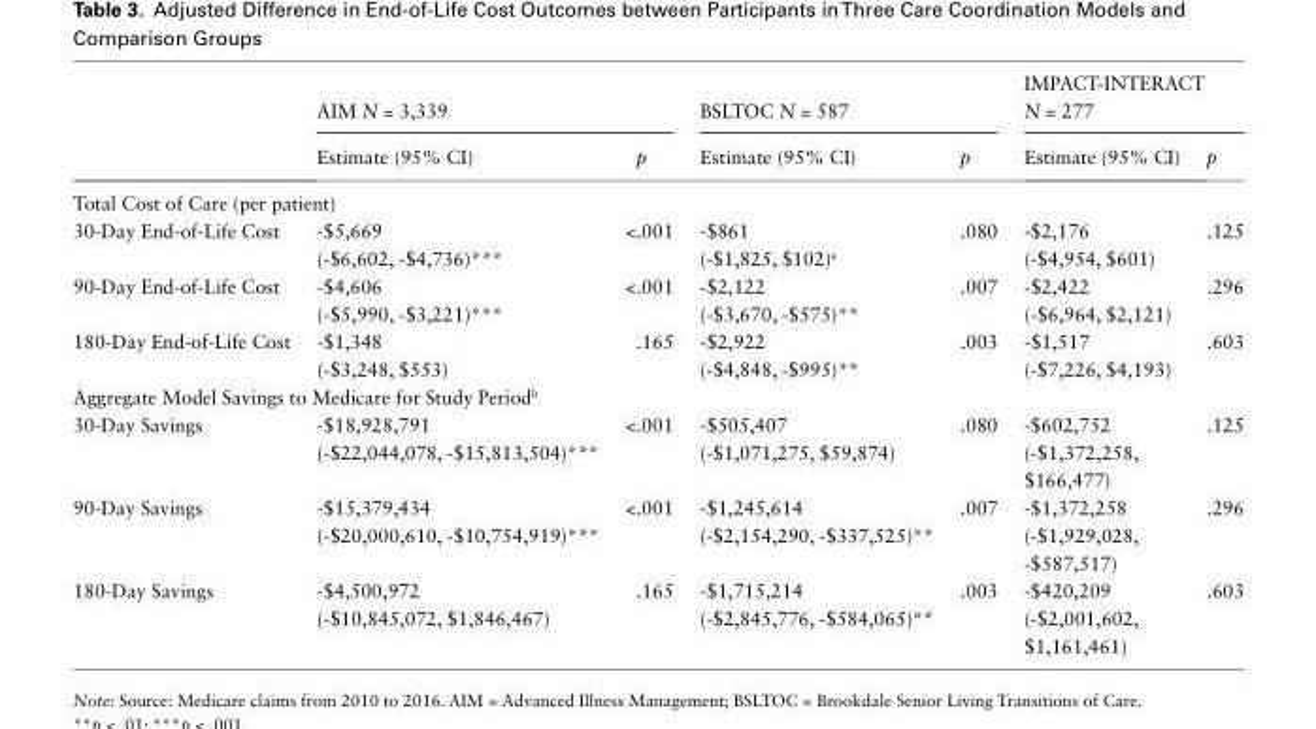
<table><thead><tr><td rowspan="2"></td><td colspan="2">AIM N = 3,339</td><td colspan="2">BSLTOC N = 587</td><td colspan="2">IMPACT-INTERACT N = 277</td></tr><tr><td>Estimate (95% CI)</td><td>p</td><td>Estimate (95% CI)</td><td>p</td><td>Estimate (95% CI)</td><td>p</td></tr></thead><tbody><tr><td colspan="7">Total Cost of Care (per patient)</td></tr><tr><td>30-Day End-of-Life Cost</td><td>-$5,669 (-$6,602, -$4,736)***</td><td>&lt;.001</td><td>-$861 (-$1,825, $102)<sup>a</sup></td><td>.080</td><td>-$2,176 (-$4,954, $601)</td><td>.125</td></tr><tr><td>90-Day End-of-Life Cost</td><td>-$4,606 (-$5,990, -$3,221)***</td><td>&lt;.001</td><td>-$2,122 (-$3,670, -$575)**</td><td>.007</td><td>-$2,422 (-$6,964, $2,121)</td><td>.296</td></tr><tr><td>180-Day End-of-Life Cost</td><td>-$1,348 (-$3,248, $553)</td><td>.165</td><td>-$2,922 (-$4,848, -$995)**</td><td>.003</td><td>-$1,517 (-$7,226, $4,193)</td><td>.603</td></tr><tr><td colspan="7">Aggregate Model Savings to Medicare for Study Period<sup>b</sup></td></tr><tr><td>30-Day Savings</td><td>-$18,928,791 (-$22,044,078, -$15,813,504)***</td><td>&lt;.001</td><td>-$505,407 (-$1,071,275, $59,874)</td><td>.080</td><td>-$602,752 (-$1,372,258, $166,477)</td><td>.125</td></tr><tr><td>90-Day Savings</td><td>-$15,379,434 (-$20,000,610, -$10,754,919)***</td><td>&lt;.001</td><td>-$1,245,614 (-$2,154,290, -$337,525)**</td><td>.007</td><td>-$1,372,258 (-$1,929,028, -$587,517)</td><td>.296</td></tr><tr><td>180-Day Savings</td><td>-$4,500,972 (-$10,845,072, $1,846,467)</td><td>.165</td><td>-$1,715,214 (-$2,845,776, -$584,065)**</td><td>.003</td><td>-$420,209 (-$2,001,602, $1,161,461)</td><td>.603</td></tr></tbody></table>